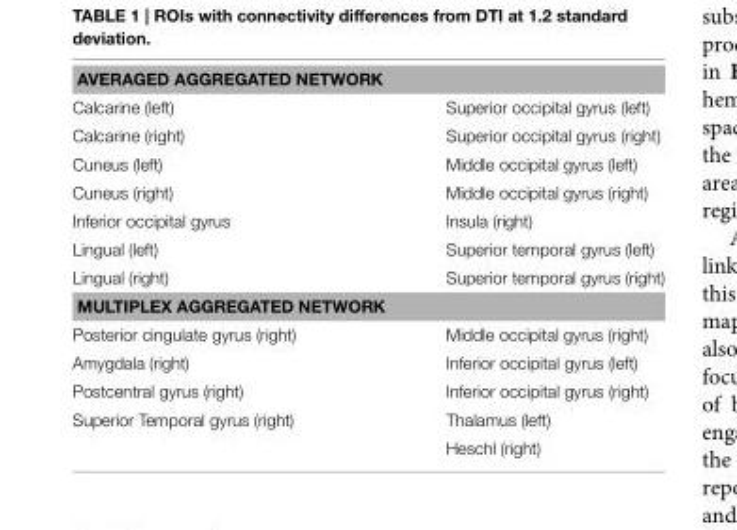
<table><tbody><tr><td colspan="2">AVERAGED AGGREGATED NETWORK</td></tr><tr><td>Calcarine (left)</td><td>Superior occipital gyrus (left)</td></tr><tr><td>Calcarine (right)</td><td>Superior occipital gyrus (right)</td></tr><tr><td>Cuneus (left)</td><td>Middle occipital gyrus (left)</td></tr><tr><td>Cuneus (right)</td><td>Middle occipital gyrus (right)</td></tr><tr><td>Inferior occipital gyrus</td><td>Insula (right)</td></tr><tr><td>Lingual (left)</td><td>Superior temporal gyrus (left)</td></tr><tr><td>Lingual (right)</td><td>Superior temporal gyrus (right)</td></tr><tr><td colspan="2">MULTIPLEX AGGREGATED NETWORK</td></tr><tr><td>Posterior cingulate gyrus (right)</td><td>Middle occipital gyrus (right)</td></tr><tr><td>Amygdala (right)</td><td>Inferior occipital gyrus (left)</td></tr><tr><td>Postcentral gyrus (right)</td><td>Inferior occipital gyrus (right)</td></tr><tr><td rowspan="2">Superior Temporal gyrus (right)</td><td>Thalamus (left)</td></tr><tr><td>Heschl (right)</td></tr></tbody></table>